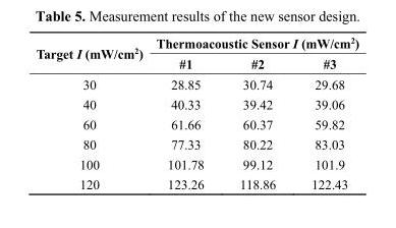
<table><thead><tr><td rowspan="2">Target I (mW/cm<sup>2</sup>)</td><td colspan="3">Thermoacoustic Sensor I (mW/cm<sup>2</sup>)</td></tr><tr><td>#1</td><td>#2</td><td>#3</td></tr></thead><tbody><tr><td>30</td><td>28.85</td><td>30.74</td><td>29.68</td></tr><tr><td>40</td><td>40.33</td><td>39.42</td><td>39.06</td></tr><tr><td>60</td><td>61.66</td><td>60.37</td><td>59.82</td></tr><tr><td>80</td><td>77.33</td><td>80.22</td><td>83.03</td></tr><tr><td>100</td><td>101.78</td><td>99.12</td><td>101.9</td></tr><tr><td>120</td><td>123.26</td><td>118.86</td><td>122.43</td></tr></tbody></table>